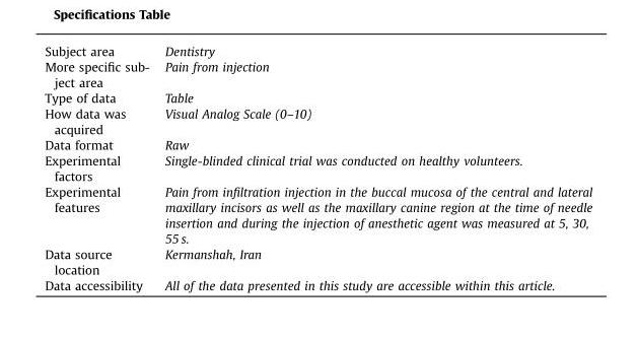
<table><tbody><tr><td>Subject area</td><td>Dentistry</td></tr><tr><td>More specific sub- ject area</td><td>Pain from injection</td></tr><tr><td>Type of data</td><td>Table</td></tr><tr><td>How data was acquired</td><td>Visual Analog Scale (0–10)</td></tr><tr><td>Data format</td><td>Raw</td></tr><tr><td>Experimental factors</td><td>Single-blinded clinical trial was conducted on healthy volunteers.</td></tr><tr><td>Experimental features</td><td>Pain from infiltration injection in the buccal mucosa of the central and lateral maxillary incisors as well as the maxillary canine region at the time of needle insertion and during the injection of anesthetic agent was measured at 5, 30, 55 s.</td></tr><tr><td>Data source location</td><td>Kermanshah, Iran</td></tr><tr><td>Data accessibility</td><td>All of the data presented in this study are accessible within this article.</td></tr></tbody></table>